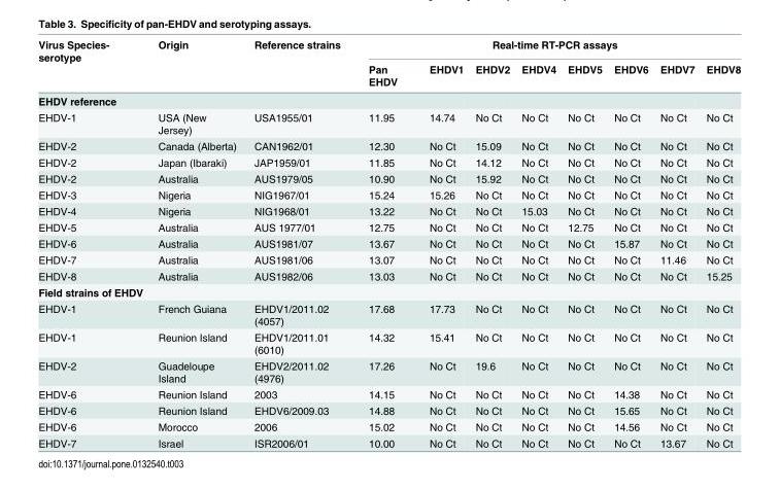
<table><thead><tr><td rowspan="2">Virus Species- serotype</td><td rowspan="2">Origin</td><td rowspan="2">Reference strains</td><td colspan="8">Real-time RT-PCR assays</td></tr><tr><td>Pan EHDV</td><td>EHDV1</td><td>EHDV2</td><td>EHDV4</td><td>EHDV5</td><td>EHDV6</td><td>EHDV7</td><td>EHDV8</td></tr></thead><tbody><tr><td colspan="11">EHDV reference</td></tr><tr><td>EHDV-1</td><td>USA (New Jersey)</td><td>USA1955/01</td><td>11.95</td><td>14.74</td><td>No Ct</td><td>No Ct</td><td>No Ct</td><td>No Ct</td><td>No Ct</td><td>No Ct</td></tr><tr><td>EHDV-2</td><td>Canada (Alberta)</td><td>CAN1962/01</td><td>12.30</td><td>No Ct</td><td>15.09</td><td>No Ct</td><td>No Ct</td><td>No Ct</td><td>No Ct</td><td>No Ct</td></tr><tr><td>EHDV-2</td><td>Japan (Ibaraki)</td><td>JAP1959/01</td><td>11.85</td><td>No Ct</td><td>14.12</td><td>No Ct</td><td>No Ct</td><td>No Ct</td><td>No Ct</td><td>No Ct</td></tr><tr><td>EHDV-2</td><td>Australia</td><td>AUS1979/05</td><td>10.90</td><td>No Ct</td><td>15.92</td><td>No Ct</td><td>No Ct</td><td>No Ct</td><td>No Ct</td><td>No Ct</td></tr><tr><td>EHDV-3</td><td>Nigeria</td><td>NIG1967/01</td><td>15.24</td><td>15.26</td><td>No Ct</td><td>No Ct</td><td>No Ct</td><td>No Ct</td><td>No Ct</td><td>No Ct</td></tr><tr><td>EHDV-4</td><td>Nigeria</td><td>NIG1968/01</td><td>13.22</td><td>No Ct</td><td>No Ct</td><td>15.03</td><td>No Ct</td><td>No Ct</td><td>No Ct</td><td>No Ct</td></tr><tr><td>EHDV-5</td><td>Australia</td><td>AUS 1977/01</td><td>12.75</td><td>No Ct</td><td>No Ct</td><td>No Ct</td><td>12.75</td><td>No Ct</td><td>No Ct</td><td>No Ct</td></tr><tr><td>EHDV-6</td><td>Australia</td><td>AUS1981/07</td><td>13.67</td><td>No Ct</td><td>No Ct</td><td>No Ct</td><td>No Ct</td><td>15.87</td><td>No Ct</td><td>No Ct</td></tr><tr><td>EHDV-7</td><td>Australia</td><td>AUS1981/06</td><td>13.07</td><td>No Ct</td><td>No Ct</td><td>No Ct</td><td>No Ct</td><td>No Ct</td><td>11.46</td><td>No Ct</td></tr><tr><td>EHDV-8</td><td>Australia</td><td>AUS1982/06</td><td>13.03</td><td>No Ct</td><td>No Ct</td><td>No Ct</td><td>No Ct</td><td>No Ct</td><td>No Ct</td><td>15.25</td></tr><tr><td colspan="11">Field strains of EHDV</td></tr><tr><td>EHDV-1</td><td>French Guiana</td><td>EHDV1/2011.02 (4057)</td><td>17.68</td><td>17.73</td><td>No Ct</td><td>No Ct</td><td>No Ct</td><td>No Ct</td><td>No Ct</td><td>No Ct</td></tr><tr><td>EHDV-1</td><td>Reunion Island</td><td>EHDV1/2011.01 (6010)</td><td>14.32</td><td>15.41</td><td>No Ct</td><td>No Ct</td><td>No Ct</td><td>No Ct</td><td>No Ct</td><td>No Ct</td></tr><tr><td>EHDV-2</td><td>Guadeloupe Island</td><td>EHDV2/2011.02 (4976)</td><td>17.26</td><td>No Ct</td><td>19.6</td><td>No Ct</td><td>No Ct</td><td>No Ct</td><td>No Ct</td><td>No Ct</td></tr><tr><td>EHDV-6</td><td>Reunion Island</td><td>2003</td><td>14.15</td><td>No Ct</td><td>No Ct</td><td>No Ct</td><td>No Ct</td><td>14.38</td><td>No Ct</td><td>No Ct</td></tr><tr><td>EHDV-6</td><td>Reunion Island</td><td>EHDV6/2009.03</td><td>14.88</td><td>No Ct</td><td>No Ct</td><td>No Ct</td><td>No Ct</td><td>15.65</td><td>No Ct</td><td>No Ct</td></tr><tr><td>EHDV-6</td><td>Morocco</td><td>2006</td><td>15.02</td><td>No Ct</td><td>No Ct</td><td>No Ct</td><td>No Ct</td><td>14.56</td><td>No Ct</td><td>No Ct</td></tr><tr><td>EHDV-7</td><td>Israel</td><td>ISR2006/01</td><td>10.00</td><td>No Ct</td><td>No Ct</td><td>No Ct</td><td>No Ct</td><td>No Ct</td><td>13.67</td><td>No Ct</td></tr></tbody></table>